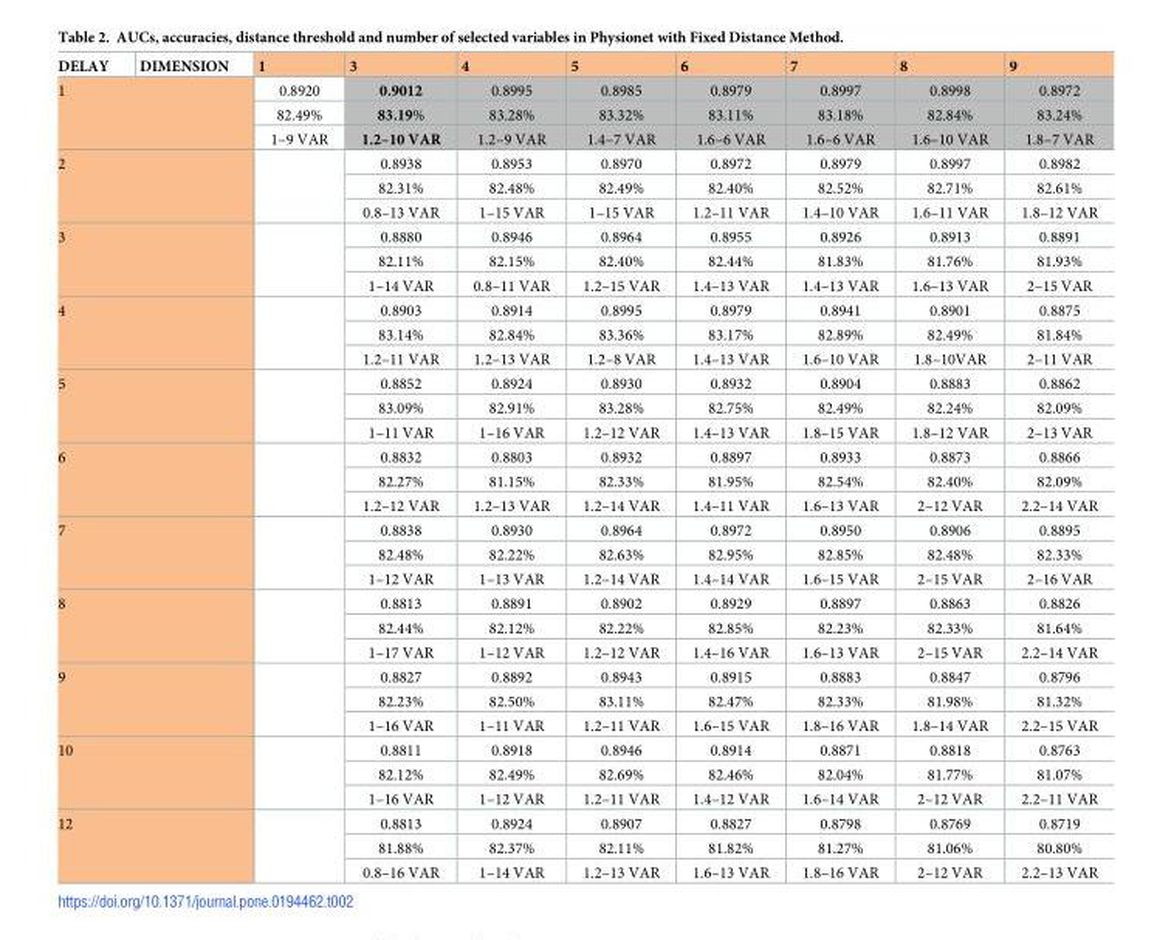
<table><thead><tr><td>DELAY</td><td>DIMENSION</td><td>1</td><td>3</td><td>4</td><td>5</td><td>6</td><td>7</td><td>8</td><td>9</td></tr></thead><tbody><tr><td rowspan="3" colspan="2">1</td><td>0.8920</td><td>0.9012</td><td>0.8995</td><td>0.8985</td><td>0.8979</td><td>0.8997</td><td>0.8998</td><td>0.8972</td></tr><tr><td>82.49%</td><td>83.19%</td><td>83.28%</td><td>83.32%</td><td>83.11%</td><td>83.18%</td><td>82.84%</td><td>83.24%</td></tr><tr><td>1–9 VAR</td><td>1.2–10 VAR</td><td>1.2–9 VAR</td><td>1.4–7 VAR</td><td>1.6–6 VAR</td><td>1.6–6 VAR</td><td>1.6–10 VAR</td><td>1.8–7 VAR</td></tr><tr><td rowspan="3" colspan="2">2</td><td rowspan="3"></td><td>0.8938</td><td>0.8953</td><td>0.8970</td><td>0.8972</td><td>0.8979</td><td>0.8997</td><td>0.8982</td></tr><tr><td>82.31%</td><td>82.48%</td><td>82.49%</td><td>82.40%</td><td>82.52%</td><td>82.71%</td><td>82.61%</td></tr><tr><td>0.8–13 VAR</td><td>1–15 VAR</td><td>1–15 VAR</td><td>1.2–11 VAR</td><td>1.4–10 VAR</td><td>1.6–11 VAR</td><td>1.8–12 VAR</td></tr><tr><td rowspan="3" colspan="2">3</td><td rowspan="3"></td><td>0.8880</td><td>0.8946</td><td>0.8964</td><td>0.8955</td><td>0.8926</td><td>0.8913</td><td>0.8891</td></tr><tr><td>82.11%</td><td>82.15%</td><td>82.40%</td><td>82.44%</td><td>81.83%</td><td>81.76%</td><td>81.93%</td></tr><tr><td>1–14 VAR</td><td>0.8–11 VAR</td><td>1.2–15 VAR</td><td>1.4–13 VAR</td><td>1.4–13 VAR</td><td>1.6–13 VAR</td><td>2–15 VAR</td></tr><tr><td rowspan="3" colspan="2">4</td><td rowspan="3"></td><td>0.8903</td><td>0.8914</td><td>0.8995</td><td>0.8979</td><td>0.8941</td><td>0.8901</td><td>0.8875</td></tr><tr><td>83.14%</td><td>82.84%</td><td>83.36%</td><td>83.17%</td><td>82.89%</td><td>82.49%</td><td>81.84%</td></tr><tr><td>1.2–11 VAR</td><td>1.2–13 VAR</td><td>1.2–8 VAR</td><td>1.4–13 VAR</td><td>1.6–10 VAR</td><td>1.8–10VAR</td><td>2–11 VAR</td></tr><tr><td rowspan="3" colspan="2">5</td><td rowspan="3"></td><td>0.8852</td><td>0.8924</td><td>0.8930</td><td>0.8932</td><td>0.8904</td><td>0.8883</td><td>0.8862</td></tr><tr><td>83.09%</td><td>82.91%</td><td>83.28%</td><td>82.75%</td><td>82.49%</td><td>82.24%</td><td>82.09%</td></tr><tr><td>1–11 VAR</td><td>1–16 VAR</td><td>1.2–12 VAR</td><td>1.4–13 VAR</td><td>1.8–15 VAR</td><td>1.8–12 VAR</td><td>2–13 VAR</td></tr><tr><td rowspan="3" colspan="2">6</td><td rowspan="3"></td><td>0.8832</td><td>0.8803</td><td>0.8932</td><td>0.8897</td><td>0.8933</td><td>0.8873</td><td>0.8866</td></tr><tr><td>82.27%</td><td>81.15%</td><td>82.33%</td><td>81.95%</td><td>82.54%</td><td>82.40%</td><td>82.09%</td></tr><tr><td>1.2–12 VAR</td><td>1.2–13 VAR</td><td>1.2–14 VAR</td><td>1.4–11 VAR</td><td>1.6–13 VAR</td><td>2–12 VAR</td><td>2.2–14 VAR</td></tr><tr><td rowspan="3" colspan="2">7</td><td rowspan="3"></td><td>0.8838</td><td>0.8930</td><td>0.8964</td><td>0.8972</td><td>0.8950</td><td>0.8906</td><td>0.8895</td></tr><tr><td>82.48%</td><td>82.22%</td><td>82.63%</td><td>82.95%</td><td>82.85%</td><td>82.48%</td><td>82.33%</td></tr><tr><td>1–12 VAR</td><td>1–13 VAR</td><td>1.2–14 VAR</td><td>1.4–14 VAR</td><td>1.6–15 VAR</td><td>2–15 VAR</td><td>2–16 VAR</td></tr><tr><td rowspan="3" colspan="2">8</td><td rowspan="3"></td><td>0.8813</td><td>0.8891</td><td>0.8902</td><td>0.8929</td><td>0.8897</td><td>0.8863</td><td>0.8826</td></tr><tr><td>82.44%</td><td>82.12%</td><td>82.22%</td><td>82.85%</td><td>82.23%</td><td>82.33%</td><td>81.64%</td></tr><tr><td>1–17 VAR</td><td>1–12 VAR</td><td>1.2–12 VAR</td><td>1.4–16 VAR</td><td>1.6–13 VAR</td><td>2–15 VAR</td><td>2.2–14 VAR</td></tr><tr><td rowspan="3" colspan="2">9</td><td rowspan="3"></td><td>0.8827</td><td>0.8892</td><td>0.8943</td><td>0.8915</td><td>0.8883</td><td>0.8847</td><td>0.8796</td></tr><tr><td>82.23%</td><td>82.50%</td><td>83.11%</td><td>82.47%</td><td>82.33%</td><td>81.98%</td><td>81.32%</td></tr><tr><td>1–16 VAR</td><td>1–11 VAR</td><td>1.2–11 VAR</td><td>1.6–15 VAR</td><td>1.8–16 VAR</td><td>1.8–14 VAR</td><td>2.2–15 VAR</td></tr><tr><td rowspan="3" colspan="2">10</td><td rowspan="3"></td><td>0.8811</td><td>0.8918</td><td>0.8946</td><td>0.8914</td><td>0.8871</td><td>0.8818</td><td>0.8763</td></tr><tr><td>82.12%</td><td>82.49%</td><td>82.69%</td><td>82.46%</td><td>82.04%</td><td>81.77%</td><td>81.07%</td></tr><tr><td>1–16 VAR</td><td>1–12 VAR</td><td>1.2–11 VAR</td><td>1.4–12 VAR</td><td>1.6–14 VAR</td><td>2–12 VAR</td><td>2.2–11 VAR</td></tr><tr><td rowspan="3" colspan="2">12</td><td rowspan="3"></td><td>0.8813</td><td>0.8924</td><td>0.8907</td><td>0.8827</td><td>0.8798</td><td>0.8769</td><td>0.8719</td></tr><tr><td>81.88%</td><td>82.37%</td><td>82.11%</td><td>81.82%</td><td>81.27%</td><td>81.06%</td><td>80.80%</td></tr><tr><td>0.8–16 VAR</td><td>1–14 VAR</td><td>1.2–13 VAR</td><td>1.6–13 VAR</td><td>1.8–16 VAR</td><td>2–12 VAR</td><td>2.2–13 VAR</td></tr></tbody></table>